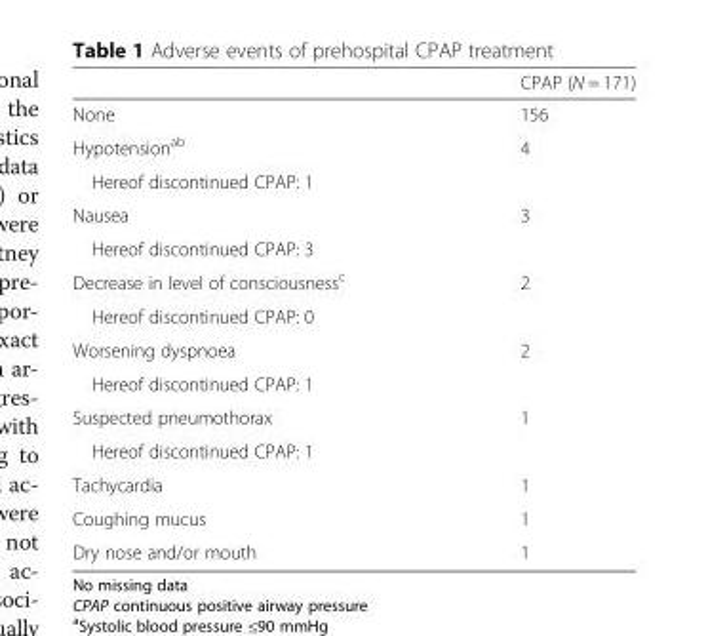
<table><thead><tr><td></td><td>CPAP (N = 171)</td></tr></thead><tbody><tr><td>None</td><td>156</td></tr><tr><td>Hypotension<sup>ab</sup></td><td>4</td></tr><tr><td colspan="2">Hereof discontinued CPAP: 1</td></tr><tr><td>Nausea</td><td>3</td></tr><tr><td colspan="2">Hereof discontinued CPAP: 3</td></tr><tr><td>Decrease in level of consciousness<sup>c</sup></td><td>2</td></tr><tr><td colspan="2">Hereof discontinued CPAP: 0</td></tr><tr><td>Worsening dyspnoea</td><td>2</td></tr><tr><td colspan="2">Hereof discontinued CPAP: 1</td></tr><tr><td>Suspected pneumothorax</td><td>1</td></tr><tr><td colspan="2">Hereof discontinued CPAP: 1</td></tr><tr><td>Tachycardia</td><td>1</td></tr><tr><td>Coughing mucus</td><td>1</td></tr><tr><td>Dry nose and/or mouth</td><td>1</td></tr></tbody></table>